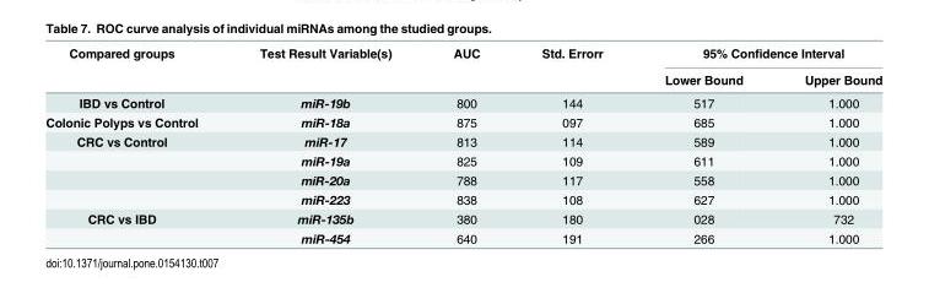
<table><thead><tr><td rowspan="2">Compared groups</td><td rowspan="2">Test Result Variable(s)</td><td rowspan="2">AUC</td><td rowspan="2">Std. Errorr</td><td colspan="2">95% Confidence Interval</td></tr><tr><td>Lower Bound</td><td>Upper Bound</td></tr></thead><tbody><tr><td>IBD vs Control</td><td>miR-19b</td><td>800</td><td>144</td><td>517</td><td>1.000</td></tr><tr><td>Colonic Polyps vs Control</td><td>miR-18a</td><td>875</td><td>097</td><td>685</td><td>1.000</td></tr><tr><td rowspan="4">CRC vs Control</td><td>miR-17</td><td>813</td><td>114</td><td>589</td><td>1.000</td></tr><tr><td>miR-19a</td><td>825</td><td>109</td><td>611</td><td>1.000</td></tr><tr><td>miR-20a</td><td>788</td><td>117</td><td>558</td><td>1.000</td></tr><tr><td>miR-223</td><td>838</td><td>108</td><td>627</td><td>1.000</td></tr><tr><td rowspan="2">CRC vs IBD</td><td>miR-135b</td><td>380</td><td>180</td><td>028</td><td>732</td></tr><tr><td>miR-454</td><td>640</td><td>191</td><td>266</td><td>1.000</td></tr></tbody></table>